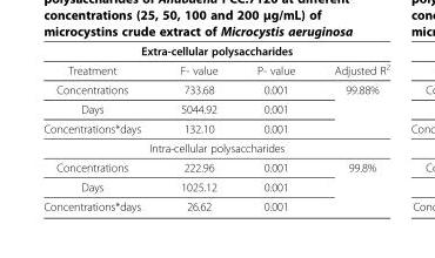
<table><thead><tr><td colspan="4">Extra-cellular polysaccharides</td></tr><tr><td>Treatment</td><td>F- value</td><td>P- value</td><td>Adjusted R<sup>2</sup></td></tr></thead><tbody><tr><td>Concentrations</td><td>733.68</td><td>0.001</td><td rowspan="3">99.88%</td></tr><tr><td>Days</td><td>5044.92</td><td>0.001</td></tr><tr><td>Concentrations*days</td><td>132.10</td><td>0.001</td></tr><tr><td colspan="4">Intra-cellular polysaccharides</td></tr><tr><td>Concentrations</td><td>222.96</td><td>0.001</td><td rowspan="3">99.8%</td></tr><tr><td>Days</td><td>1025.12</td><td>0.001</td></tr><tr><td>Concentrations*days</td><td>26.62</td><td>0.001</td></tr></tbody></table>